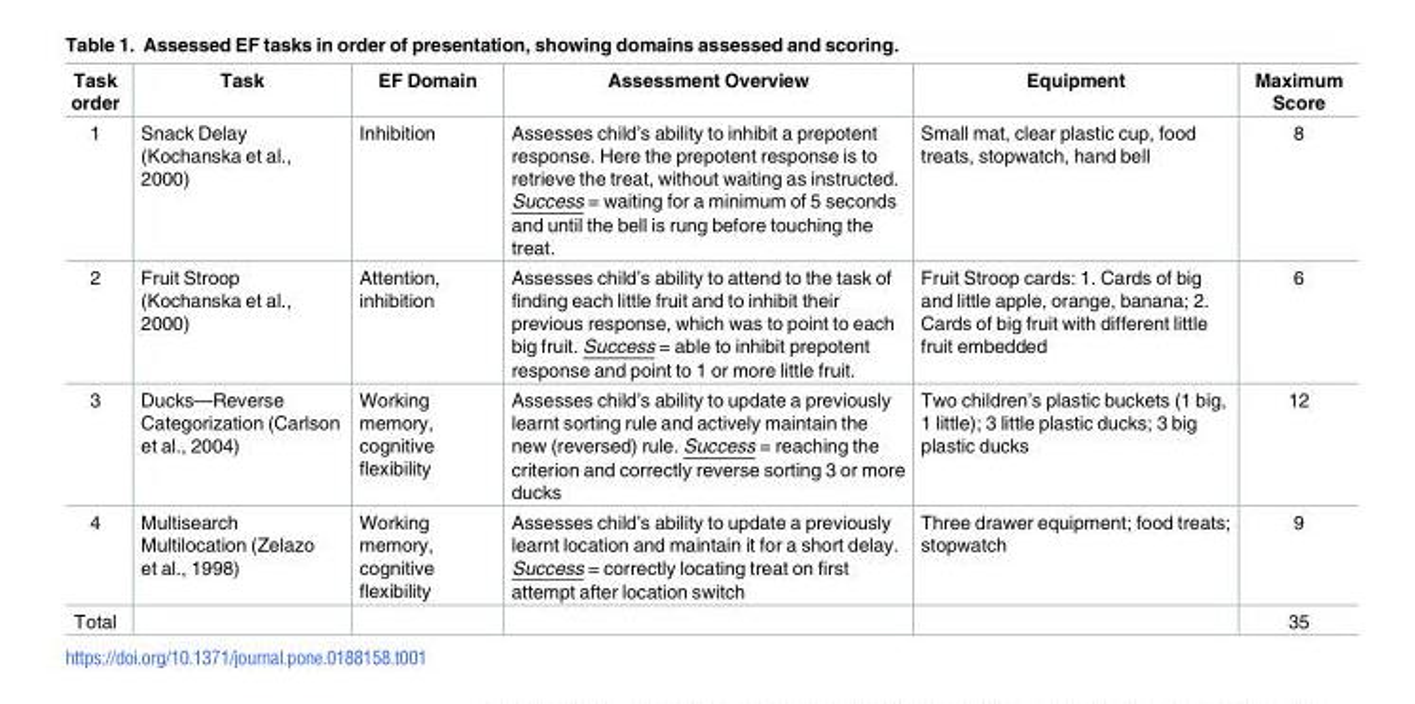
<table><thead><tr><td>Task order</td><td>Task</td><td>EF Domain</td><td>Assessment Overview</td><td>Equipment</td><td>Maximum Score</td></tr></thead><tbody><tr><td>1</td><td>Snack Delay (Kochanska et al., 2000)</td><td>Inhibition</td><td>Assesses child’s ability to inhibit a prepotent response. Here the prepotent response is to retrieve the treat, without waiting as instructed. Success = waiting for a minimum of 5 seconds and until the bell is rung before touching the treat.</td><td>Small mat, clear plastic cup, food treats, stopwatch, hand bell</td><td>8</td></tr><tr><td>2</td><td>Fruit Stroop (Kochanska et al., 2000)</td><td>Attention, inhibition</td><td>Assesses child’s ability to attend to the task of finding each little fruit and to inhibit their previous response, which was to point to each big fruit. Success = able to inhibit prepotent response and point to 1 or more little fruit.</td><td>Fruit Stroop cards: 1. Cards of big and little apple, orange, banana; 2. Cards of big fruit with different little fruit embedded</td><td>6</td></tr><tr><td>3</td><td>Ducks—Reverse Categorization (Carlson et al., 2004)</td><td>Working memory, cognitive flexibility</td><td>Assesses child’s ability to update a previously learnt sorting rule and actively maintain the new (reversed) rule. Success = reaching the criterion and correctly reverse sorting 3 or more ducks</td><td>Two children’s plastic buckets (1 big, 1 little); 3 little plastic ducks; 3 big plastic ducks</td><td>12</td></tr><tr><td>4</td><td>Multisearch Multilocation (Zelazo et al., 1998)</td><td>Working memory, cognitive flexibility</td><td>Assesses child’s ability to update a previously learnt location and maintain it for a short delay. Success = correctly locating treat on first attempt after location switch</td><td>Three drawer equipment; food treats; stopwatch</td><td>9</td></tr><tr><td>Total</td><td></td><td></td><td></td><td></td><td>35</td></tr></tbody></table>